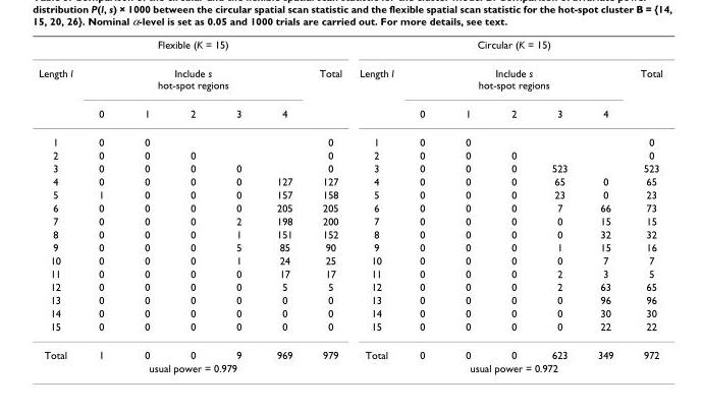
<table><tbody><tr><td colspan="7">Flexible (K = 15)</td><td colspan="7">Circular (K = 15)</td></tr><tr><td rowspan="2">Length l</td><td colspan="5">Include s hot-spot regions</td><td>Total</td><td>Length l</td><td colspan="5">Include s hot-spot regions</td><td>Total</td></tr><tr><td>0</td><td>1</td><td>2</td><td>3</td><td>4</td><td></td><td></td><td>0</td><td>1</td><td>2</td><td>3</td><td>4</td><td></td></tr><tr><td>1</td><td>0</td><td>0</td><td></td><td></td><td></td><td>0</td><td>1</td><td>0</td><td>0</td><td></td><td></td><td></td><td>0</td></tr><tr><td>2</td><td>0</td><td>0</td><td>0</td><td></td><td></td><td>0</td><td>2</td><td>0</td><td>0</td><td>0</td><td></td><td></td><td>0</td></tr><tr><td>3</td><td>0</td><td>0</td><td>0</td><td>0</td><td></td><td>0</td><td>3</td><td>0</td><td>0</td><td>0</td><td>523</td><td></td><td>523</td></tr><tr><td>4</td><td>0</td><td>0</td><td>0</td><td>0</td><td>127</td><td>127</td><td>4</td><td>0</td><td>0</td><td>0</td><td>65</td><td>0</td><td>65</td></tr><tr><td>5</td><td>1</td><td>0</td><td>0</td><td>0</td><td>157</td><td>158</td><td>5</td><td>0</td><td>0</td><td>0</td><td>23</td><td>0</td><td>23</td></tr><tr><td>6</td><td>0</td><td>0</td><td>0</td><td>0</td><td>205</td><td>205</td><td>6</td><td>0</td><td>0</td><td>0</td><td>7</td><td>66</td><td>73</td></tr><tr><td>7</td><td>0</td><td>0</td><td>0</td><td>2</td><td>198</td><td>200</td><td>7</td><td>0</td><td>0</td><td>0</td><td>0</td><td>15</td><td>15</td></tr><tr><td>8</td><td>0</td><td>0</td><td>0</td><td>1</td><td>151</td><td>152</td><td>8</td><td>0</td><td>0</td><td>0</td><td>0</td><td>32</td><td>32</td></tr><tr><td>9</td><td>0</td><td>0</td><td>0</td><td>5</td><td>85</td><td>90</td><td>9</td><td>0</td><td>0</td><td>0</td><td>1</td><td>15</td><td>16</td></tr><tr><td>10</td><td>0</td><td>0</td><td>0</td><td>1</td><td>24</td><td>25</td><td>10</td><td>0</td><td>0</td><td>0</td><td>0</td><td>7</td><td>7</td></tr><tr><td>11</td><td>0</td><td>0</td><td>0</td><td>0</td><td>17</td><td>17</td><td>11</td><td>0</td><td>0</td><td>0</td><td>2</td><td>3</td><td>5</td></tr><tr><td>12</td><td>0</td><td>0</td><td>0</td><td>0</td><td>5</td><td>5</td><td>12</td><td>0</td><td>0</td><td>0</td><td>2</td><td>63</td><td>65</td></tr><tr><td>13</td><td>0</td><td>0</td><td>0</td><td>0</td><td>0</td><td>0</td><td>13</td><td>0</td><td>0</td><td>0</td><td>0</td><td>96</td><td>96</td></tr><tr><td>14</td><td>0</td><td>0</td><td>0</td><td>0</td><td>0</td><td>0</td><td>14</td><td>0</td><td>0</td><td>0</td><td>0</td><td>30</td><td>30</td></tr><tr><td>15</td><td>0</td><td>0</td><td>0</td><td>0</td><td>0</td><td>0</td><td>15</td><td>0</td><td>0</td><td>0</td><td>0</td><td>22</td><td>22</td></tr><tr><td rowspan="2">Total</td><td>1</td><td>0</td><td>0</td><td>9</td><td>969</td><td>979</td><td>Total</td><td>0</td><td>0</td><td>0</td><td>623</td><td>349</td><td>972</td></tr><tr><td colspan="5">usual power = 0.979</td><td></td><td></td><td colspan="5">usual power = 0.972</td><td></td></tr></tbody></table>